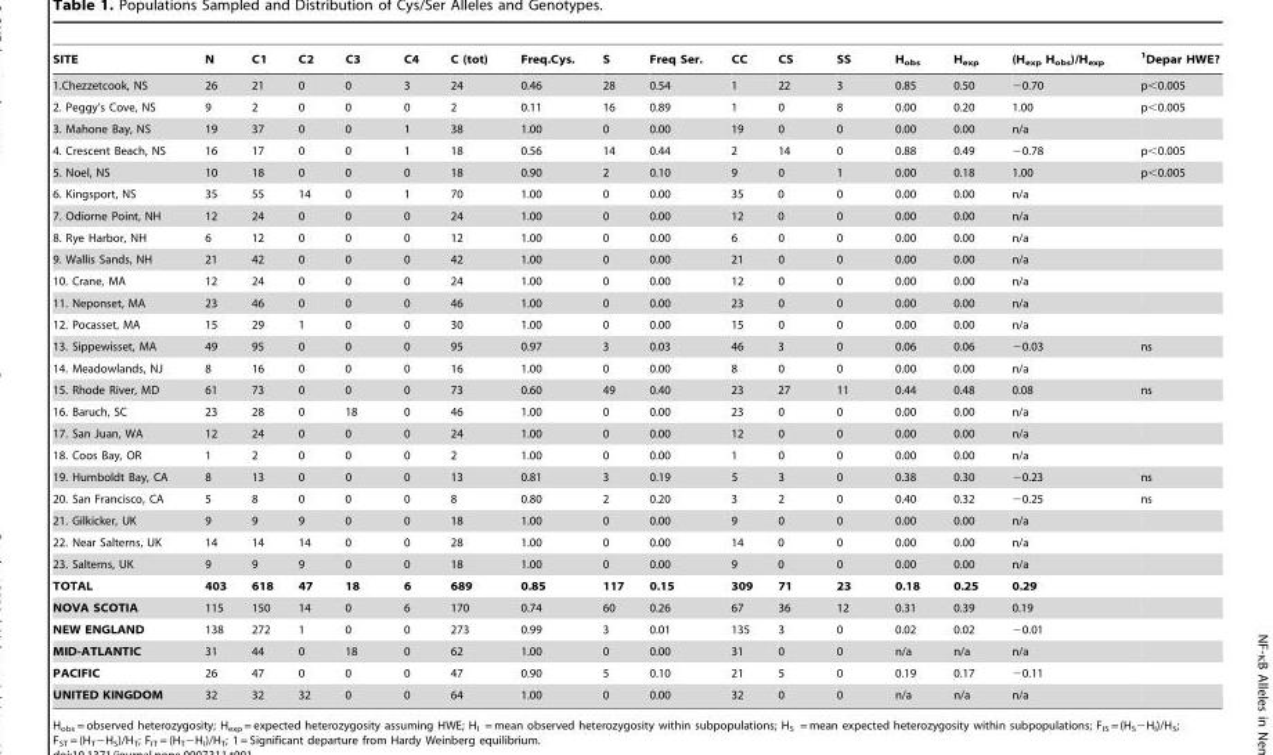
<table><thead><tr><td>SITE</td><td>N</td><td>C1</td><td>C2</td><td>C3</td><td>C4</td><td>C (tot)</td><td>Freq.Cys.</td><td>S</td><td>Freq Ser.</td><td>CC</td><td>CS</td><td>SS</td><td>H<sub>obs</sub></td><td>H<sub>exp</sub></td><td>(H<sub>exp</sub> H<sub>obs</sub>)/H<sub>exp</sub></td><td><sup>1</sup>Depar HWE?</td></tr></thead><tbody><tr><td>1.Chezzetcook, NS</td><td>26</td><td>21</td><td>0</td><td>0</td><td>3</td><td>24</td><td>0.46</td><td>28</td><td>0.54</td><td>1</td><td>22</td><td>3</td><td>0.85</td><td>0.50</td><td>−0.70</td><td>p&lt;0.005</td></tr><tr><td>2. Peggy’s Cove, NS</td><td>9</td><td>2</td><td>0</td><td>0</td><td>0</td><td>2</td><td>0.11</td><td>16</td><td>0.89</td><td>1</td><td>0</td><td>8</td><td>0.00</td><td>0.20</td><td>1.00</td><td>p&lt;0.005</td></tr><tr><td>3. Mahone Bay, NS</td><td>19</td><td>37</td><td>0</td><td>0</td><td>1</td><td>38</td><td>1.00</td><td>0</td><td>0.00</td><td>19</td><td>0</td><td>0</td><td>0.00</td><td>0.00</td><td>n/a</td><td></td></tr><tr><td>4. Crescent Beach, NS</td><td>16</td><td>17</td><td>0</td><td>0</td><td>1</td><td>18</td><td>0.56</td><td>14</td><td>0.44</td><td>2</td><td>14</td><td>0</td><td>0.88</td><td>0.49</td><td>−0.78</td><td>p&lt;0.005</td></tr><tr><td>5. Noel, NS</td><td>10</td><td>18</td><td>0</td><td>0</td><td>0</td><td>18</td><td>0.90</td><td>2</td><td>0.10</td><td>9</td><td>0</td><td>1</td><td>0.00</td><td>0.18</td><td>1.00</td><td>p&lt;0.005</td></tr><tr><td>6. Kingsport, NS</td><td>35</td><td>55</td><td>14</td><td>0</td><td>1</td><td>70</td><td>1.00</td><td>0</td><td>0.00</td><td>35</td><td>0</td><td>0</td><td>0.00</td><td>0.00</td><td>n/a</td><td></td></tr><tr><td>7. Odiorne Point, NH</td><td>12</td><td>24</td><td>0</td><td>0</td><td>0</td><td>24</td><td>1.00</td><td>0</td><td>0.00</td><td>12</td><td>0</td><td>0</td><td>0.00</td><td>0.00</td><td>n/a</td><td></td></tr><tr><td>8. Rye Harbor, NH</td><td>6</td><td>12</td><td>0</td><td>0</td><td>0</td><td>12</td><td>1.00</td><td>0</td><td>0.00</td><td>6</td><td>0</td><td>0</td><td>0.00</td><td>0.00</td><td>n/a</td><td></td></tr><tr><td>9. Wallis Sands, NH</td><td>21</td><td>42</td><td>0</td><td>0</td><td>0</td><td>42</td><td>1.00</td><td>0</td><td>0.00</td><td>21</td><td>0</td><td>0</td><td>0.00</td><td>0.00</td><td>n/a</td><td></td></tr><tr><td>10. Crane, MA</td><td>12</td><td>24</td><td>0</td><td>0</td><td>0</td><td>24</td><td>1.00</td><td>0</td><td>0.00</td><td>12</td><td>0</td><td>0</td><td>0.00</td><td>0.00</td><td>n/a</td><td></td></tr><tr><td>11. Neponset, MA</td><td>23</td><td>46</td><td>0</td><td>0</td><td>0</td><td>46</td><td>1.00</td><td>0</td><td>0.00</td><td>23</td><td>0</td><td>0</td><td>0.00</td><td>0.00</td><td>n/a</td><td></td></tr><tr><td>12. Pocasset, MA</td><td>15</td><td>29</td><td>1</td><td>0</td><td>0</td><td>30</td><td>1.00</td><td>0</td><td>0.00</td><td>15</td><td>0</td><td>0</td><td>0.00</td><td>0.00</td><td>n/a</td><td></td></tr><tr><td>13. Sippewisset, MA</td><td>49</td><td>95</td><td>0</td><td>0</td><td>0</td><td>95</td><td>0.97</td><td>3</td><td>0.03</td><td>46</td><td>3</td><td>0</td><td>0.06</td><td>0.06</td><td>−0.03</td><td>ns</td></tr><tr><td>14. Meadowlands, NJ</td><td>8</td><td>16</td><td>0</td><td>0</td><td>0</td><td>16</td><td>1.00</td><td>0</td><td>0.00</td><td>8</td><td>0</td><td>0</td><td>0.00</td><td>0.00</td><td>n/a</td><td></td></tr><tr><td>15. Rhode River, MD</td><td>61</td><td>73</td><td>0</td><td>0</td><td>0</td><td>73</td><td>0.60</td><td>49</td><td>0.40</td><td>23</td><td>27</td><td>11</td><td>0.44</td><td>0.48</td><td>0.08</td><td>ns</td></tr><tr><td>16. Baruch, SC</td><td>23</td><td>28</td><td>0</td><td>18</td><td>0</td><td>46</td><td>1.00</td><td>0</td><td>0.00</td><td>23</td><td>0</td><td>0</td><td>0.00</td><td>0.00</td><td>n/a</td><td></td></tr><tr><td>17. San Juan, WA</td><td>12</td><td>24</td><td>0</td><td>0</td><td>0</td><td>24</td><td>1.00</td><td>0</td><td>0.00</td><td>12</td><td>0</td><td>0</td><td>0.00</td><td>0.00</td><td>n/a</td><td></td></tr><tr><td>18. Coos Bay, OR</td><td>1</td><td>2</td><td>0</td><td>0</td><td>0</td><td>2</td><td>1.00</td><td>0</td><td>0.00</td><td>1</td><td>0</td><td>0</td><td>0.00</td><td>0.00</td><td>n/a</td><td></td></tr><tr><td>19. Humboldt Bay, CA</td><td>8</td><td>13</td><td>0</td><td>0</td><td>0</td><td>13</td><td>0.81</td><td>3</td><td>0.19</td><td>5</td><td>3</td><td>0</td><td>0.38</td><td>0.30</td><td>−0.23</td><td>ns</td></tr><tr><td>20. San Francisco, CA</td><td>5</td><td>8</td><td>0</td><td>0</td><td>0</td><td>8</td><td>0.80</td><td>2</td><td>0.20</td><td>3</td><td>2</td><td>0</td><td>0.40</td><td>0.32</td><td>−0.25</td><td>ns</td></tr><tr><td>21. Gilkicker, UK</td><td>9</td><td>9</td><td>9</td><td>0</td><td>0</td><td>18</td><td>1.00</td><td>0</td><td>0.00</td><td>9</td><td>0</td><td>0</td><td>0.00</td><td>0.00</td><td>n/a</td><td></td></tr><tr><td>22. Near Salterns, UK</td><td>14</td><td>14</td><td>14</td><td>0</td><td>0</td><td>28</td><td>1.00</td><td>0</td><td>0.00</td><td>14</td><td>0</td><td>0</td><td>0.00</td><td>0.00</td><td>n/a</td><td></td></tr><tr><td>23. Salterns, UK</td><td>9</td><td>9</td><td>9</td><td>0</td><td>0</td><td>18</td><td>1.00</td><td>0</td><td>0.00</td><td>9</td><td>0</td><td>0</td><td>0.00</td><td>0.00</td><td>n/a</td><td></td></tr><tr><td>TOTAL</td><td>403</td><td>618</td><td>47</td><td>18</td><td>6</td><td>689</td><td>0.85</td><td>117</td><td>0.15</td><td>309</td><td>71</td><td>23</td><td>0.18</td><td>0.25</td><td>0.29</td><td></td></tr><tr><td>NOVA SCOTIA</td><td>115</td><td>150</td><td>14</td><td>0</td><td>6</td><td>170</td><td>0.74</td><td>60</td><td>0.26</td><td>67</td><td>36</td><td>12</td><td>0.31</td><td>0.39</td><td>0.19</td><td></td></tr><tr><td>NEW ENGLAND</td><td>138</td><td>272</td><td>1</td><td>0</td><td>0</td><td>273</td><td>0.99</td><td>3</td><td>0.01</td><td>135</td><td>3</td><td>0</td><td>0.02</td><td>0.02</td><td>−0.01</td><td></td></tr><tr><td>MID-ATLANTIC</td><td>31</td><td>44</td><td>0</td><td>18</td><td>0</td><td>62</td><td>1.00</td><td>0</td><td>0.00</td><td>31</td><td>0</td><td>0</td><td>n/a</td><td>n/a</td><td>n/a</td><td></td></tr><tr><td>PACIFIC</td><td>26</td><td>47</td><td>0</td><td>0</td><td>0</td><td>47</td><td>0.90</td><td>5</td><td>0.10</td><td>21</td><td>5</td><td>0</td><td>0.19</td><td>0.17</td><td>−0.11</td><td></td></tr><tr><td>UNITED KINGDOM</td><td>32</td><td>32</td><td>32</td><td>0</td><td>0</td><td>64</td><td>1.00</td><td>0</td><td>0.00</td><td>32</td><td>0</td><td>0</td><td>n/a</td><td>n/a</td><td>n/a</td><td></td></tr></tbody></table>